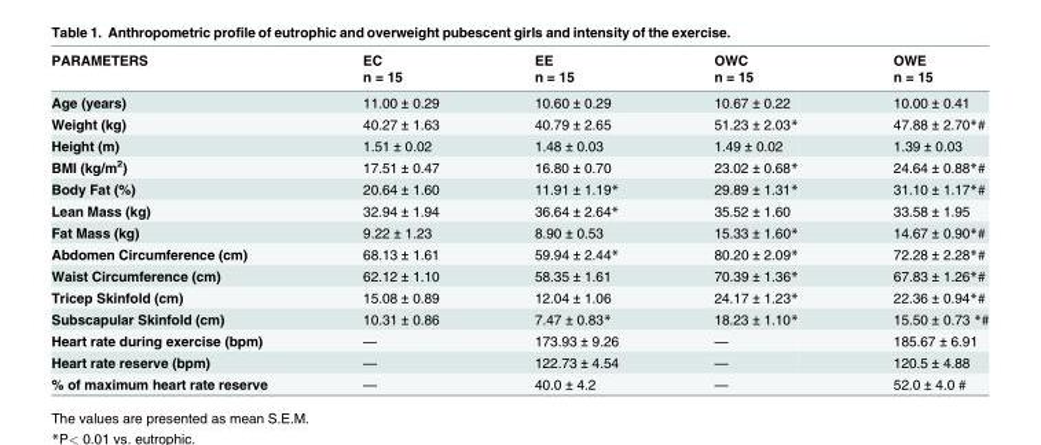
<table><thead><tr><td rowspan="2">PARAMETERS</td><td rowspan="2">EC n = 15</td><td rowspan="2">EE n = 15</td><td rowspan="2">OWC n = 15</td><td rowspan="2">OWE n = 15</td></tr><tr></tr></thead><tbody><tr><td>Age (years)</td><td>11.00 ± 0.29</td><td>10.60 ± 0.29</td><td>10.67 ± 0.22</td><td>10.00 ± 0.41</td></tr><tr><td>Weight (kg)</td><td>40.27 ± 1.63</td><td>40.79 ± 2.65</td><td>51.23 ± 2.03*</td><td>47.88 ± 2.70*#</td></tr><tr><td>Height (m)</td><td>1.51 ± 0.02</td><td>1.48 ± 0.03</td><td>1.49 ± 0.02</td><td>1.39 ± 0.03</td></tr><tr><td>BMI (kg/m<sup>2</sup>)</td><td>17.51 ± 0.47</td><td>16.80 ± 0.70</td><td>23.02 ± 0.68*</td><td>24.64 ± 0.88*#</td></tr><tr><td>Body Fat (%)</td><td>20.64 ± 1.60</td><td>11.91 ± 1.19*</td><td>29.89 ± 1.31*</td><td>31.10 ± 1.17*#</td></tr><tr><td>Lean Mass (kg)</td><td>32.94 ± 1.94</td><td>36.64 ± 2.64*</td><td>35.52 ± 1.60</td><td>33.58 ± 1.95</td></tr><tr><td>Fat Mass (kg)</td><td>9.22 ± 1.23</td><td>8.90 ± 0.53</td><td>15.33 ± 1.60*</td><td>14.67 ± 0.90*#</td></tr><tr><td>Abdomen Circumference (cm)</td><td>68.13 ± 1.61</td><td>59.94 ± 2.44*</td><td>80.20 ± 2.09*</td><td>72.28 ± 2.28*#</td></tr><tr><td>Waist Circumference (cm)</td><td>62.12 ± 1.10</td><td>58.35 ± 1.61</td><td>70.39 ± 1.36*</td><td>67.83 ± 1.26*#</td></tr><tr><td>Tricep Skinfold (cm)</td><td>15.08 ± 0.89</td><td>12.04 ± 1.06</td><td>24.17 ± 1.23*</td><td>22.36 ± 0.94*#</td></tr><tr><td>Subscapular Skinfold (cm)</td><td>10.31 ± 0.86</td><td>7.47 ± 0.83*</td><td>18.23 ± 1.10*</td><td>15.50 ± 0.73 *#</td></tr><tr><td>Heart rate during exercise (bpm)</td><td>—</td><td>173.93 ± 9.26</td><td>—</td><td>185.67 ± 6.91</td></tr><tr><td>Heart rate reserve (bpm)</td><td>—</td><td>122.73 ± 4.54</td><td>—</td><td>120.5 ± 4.88</td></tr><tr><td>% of maximum heart rate reserve</td><td>—</td><td>40.0 ± 4.2</td><td>—</td><td>52.0 ± 4.0 #</td></tr></tbody></table>